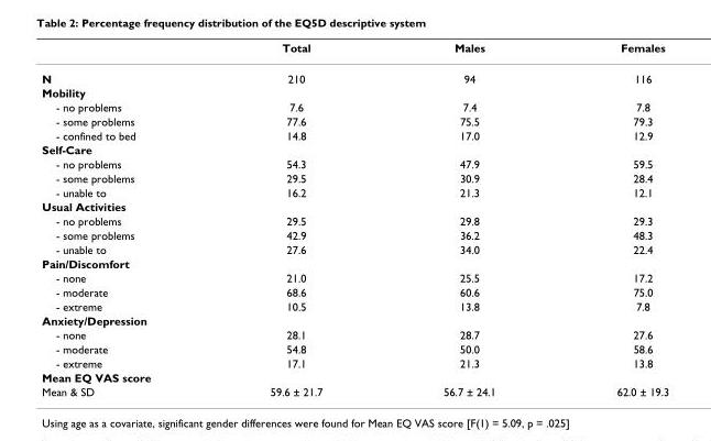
<table><thead><tr><td></td><td>Total</td><td>Males</td><td>Females</td></tr></thead><tbody><tr><td>N</td><td>210</td><td>94</td><td>116</td></tr><tr><td colspan="4">Mobility</td></tr><tr><td>- no problems</td><td>7.6</td><td>7.4</td><td>7.8</td></tr><tr><td>- some problems</td><td>77.6</td><td>75.5</td><td>79.3</td></tr><tr><td>- confined to bed</td><td>14.8</td><td>17.0</td><td>12.9</td></tr><tr><td colspan="4">Self-Care</td></tr><tr><td>- no problems</td><td>54.3</td><td>47.9</td><td>59.5</td></tr><tr><td>- some problems</td><td>29.5</td><td>30.9</td><td>28.4</td></tr><tr><td>- unable to</td><td>16.2</td><td>21.3</td><td>12.1</td></tr><tr><td colspan="4">Usual Activities</td></tr><tr><td>- no problems</td><td>29.5</td><td>29.8</td><td>29.3</td></tr><tr><td>- some problems</td><td>42.9</td><td>36.2</td><td>48.3</td></tr><tr><td>- unable to</td><td>27.6</td><td>34.0</td><td>22.4</td></tr><tr><td colspan="4">Pain/Discomfort</td></tr><tr><td>- none</td><td>21.0</td><td>25.5</td><td>17.2</td></tr><tr><td>- moderate</td><td>68.6</td><td>60.6</td><td>75.0</td></tr><tr><td>- extreme</td><td>10.5</td><td>13.8</td><td>7.8</td></tr><tr><td colspan="4">Anxiety/Depression</td></tr><tr><td>- none</td><td>28.1</td><td>28.7</td><td>27.6</td></tr><tr><td>- moderate</td><td>54.8</td><td>50.0</td><td>58.6</td></tr><tr><td>- extreme</td><td>17.1</td><td>21.3</td><td>13.8</td></tr><tr><td colspan="4">Mean EQ VAS score</td></tr><tr><td>Mean &amp; SD</td><td>59.6 ± 21.7</td><td>56.7 ± 24.1</td><td>62.0 ± 19.3</td></tr></tbody></table>